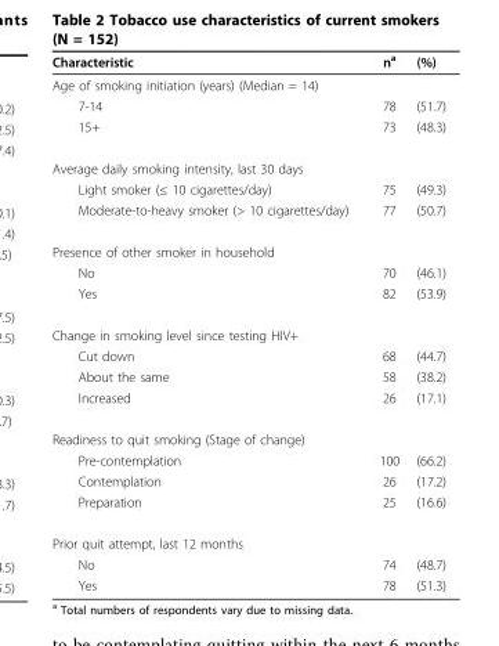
<table><thead><tr><td>Characteristic</td><td>n<sup>a</sup></td><td>(%)</td></tr></thead><tbody><tr><td colspan="3">Age of smoking initiation (years) (Median = 14)</td></tr><tr><td>7-14</td><td>78</td><td>(51.7)</td></tr><tr><td>15+</td><td>73</td><td>(48.3)</td></tr><tr><td colspan="3">Average daily smoking intensity, last 30 days</td></tr><tr><td>Light smoker (≤ 10 cigarettes/day)</td><td>75</td><td>(49.3)</td></tr><tr><td>Moderate-to-heavy smoker (&gt; 10 cigarettes/day)</td><td>77</td><td>(50.7)</td></tr><tr><td colspan="3">Presence of other smoker in household</td></tr><tr><td>No</td><td>70</td><td>(46.1)</td></tr><tr><td>Yes</td><td>82</td><td>(53.9)</td></tr><tr><td colspan="3">Change in smoking level since testing HIV+</td></tr><tr><td>Cut down</td><td>68</td><td>(44.7)</td></tr><tr><td>About the same</td><td>58</td><td>(38.2)</td></tr><tr><td>Increased</td><td>26</td><td>(17.1)</td></tr><tr><td colspan="3">Readiness to quit smoking (Stage of change)</td></tr><tr><td>Pre-contemplation</td><td>100</td><td>(66.2)</td></tr><tr><td>Contemplation</td><td>26</td><td>(17.2)</td></tr><tr><td>Preparation</td><td>25</td><td>(16.6)</td></tr><tr><td colspan="3">Prior quit attempt, last 12 months</td></tr><tr><td>No</td><td>74</td><td>(48.7)</td></tr><tr><td>Yes</td><td>78</td><td>(51.3)</td></tr></tbody></table>